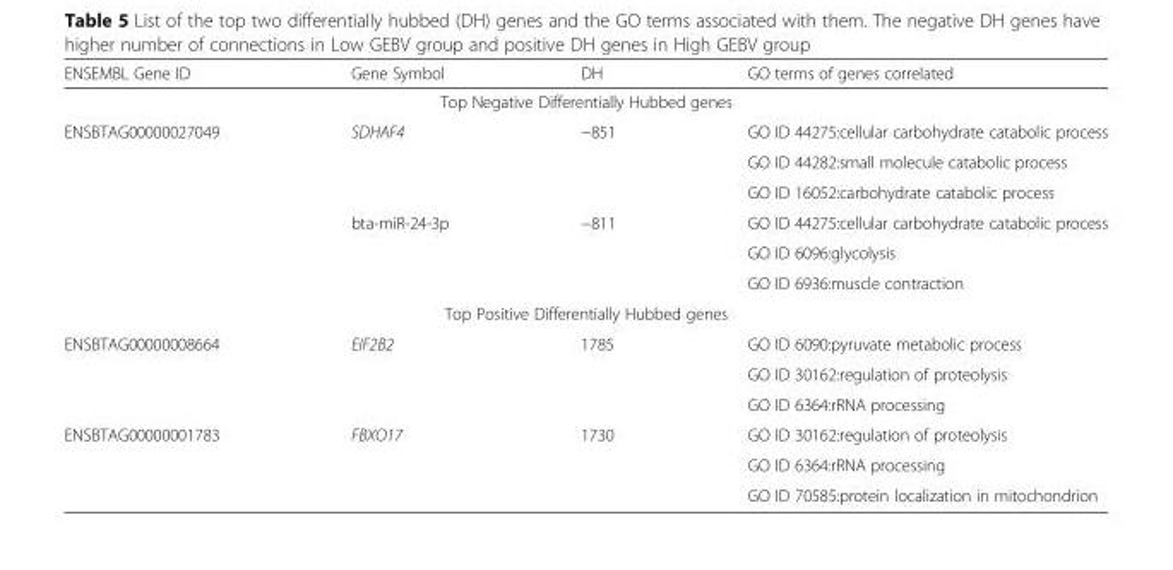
<table><thead><tr><td>ENSEMBL Gene ID</td><td>Gene Symbol</td><td>DH</td><td>GO terms of genes correlated</td></tr></thead><tbody><tr><td colspan="4">Top Negative Differentially Hubbed genes</td></tr><tr><td rowspan="6">ENSBTAG00000027049</td><td rowspan="3">SDHAF4</td><td rowspan="3">−851</td><td>GO ID 44275:cellular carbohydrate catabolic process</td></tr><tr><td>GO ID 44282:small molecule catabolic process</td></tr><tr><td>GO ID 16052:carbohydrate catabolic process</td></tr><tr><td rowspan="3">bta-miR-24-3p</td><td rowspan="3">−811</td><td>GO ID 44275:cellular carbohydrate catabolic process</td></tr><tr><td>GO ID 6096:glycolysis</td></tr><tr><td>GO ID 6936:muscle contraction</td></tr><tr><td colspan="4">Top Positive Differentially Hubbed genes</td></tr><tr><td rowspan="3">ENSBTAG00000008664</td><td rowspan="3">EIF2B2</td><td rowspan="3">1785</td><td>GO ID 6090:pyruvate metabolic process</td></tr><tr><td>GO ID 30162:regulation of proteolysis</td></tr><tr><td>GO ID 6364:rRNA processing</td></tr><tr><td rowspan="3">ENSBTAG00000001783</td><td rowspan="3">FBXO17</td><td>1730</td><td>GO ID 30162:regulation of proteolysis</td></tr><tr><td rowspan="2"></td><td>GO ID 6364:rRNA processing</td></tr><tr><td>GO ID 70585:protein localization in mitochondrion</td></tr></tbody></table>